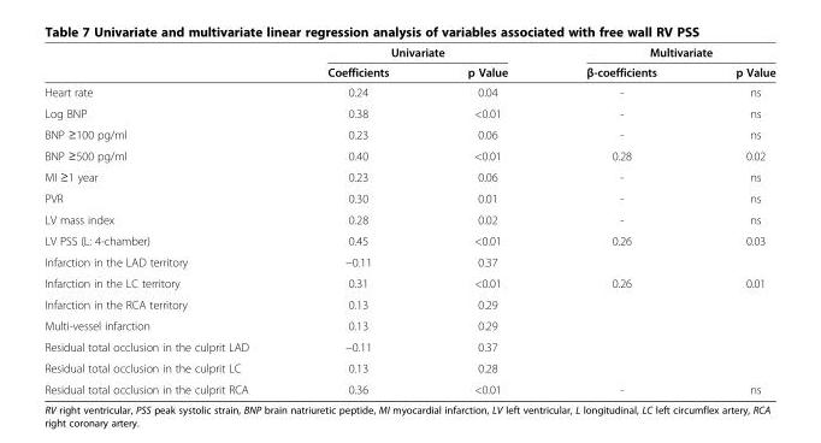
<table><thead><tr><td rowspan="2"></td><td colspan="2">Univariate</td><td colspan="2">Multivariate</td></tr><tr><td>Coefficients</td><td>p Value</td><td>β-coefficients</td><td>p Value</td></tr></thead><tbody><tr><td>Heart rate</td><td>0.24</td><td>0.04</td><td>-</td><td>ns</td></tr><tr><td>Log BNP</td><td>0.38</td><td>&lt;0.01</td><td>-</td><td>ns</td></tr><tr><td>BNP ≥100 pg/ml</td><td>0.23</td><td>0.06</td><td>-</td><td>ns</td></tr><tr><td>BNP ≥500 pg/ml</td><td>0.40</td><td>&lt;0.01</td><td>0.28</td><td>0.02</td></tr><tr><td>MI ≥1 year</td><td>0.23</td><td>0.06</td><td>-</td><td>ns</td></tr><tr><td>PVR</td><td>0.30</td><td>0.01</td><td>-</td><td>ns</td></tr><tr><td>LV mass index</td><td>0.28</td><td>0.02</td><td>-</td><td>ns</td></tr><tr><td>LV PSS (L: 4-chamber)</td><td>0.45</td><td>&lt;0.01</td><td>0.26</td><td>0.03</td></tr><tr><td>Infarction in the LAD territory</td><td>−0.11</td><td>0.37</td><td></td><td></td></tr><tr><td>Infarction in the LC territory</td><td>0.31</td><td>&lt;0.01</td><td>0.26</td><td>0.01</td></tr><tr><td>Infarction in the RCA territory</td><td>0.13</td><td>0.29</td><td></td><td></td></tr><tr><td>Multi-vessel infarction</td><td>0.13</td><td>0.29</td><td></td><td></td></tr><tr><td>Residual total occlusion in the culprit LAD</td><td>−0.11</td><td>0.37</td><td></td><td></td></tr><tr><td>Residual total occlusion in the culprit LC</td><td>0.13</td><td>0.28</td><td></td><td></td></tr><tr><td>Residual total occlusion in the culprit RCA</td><td>0.36</td><td>&lt;0.01</td><td>-</td><td>ns</td></tr></tbody></table>